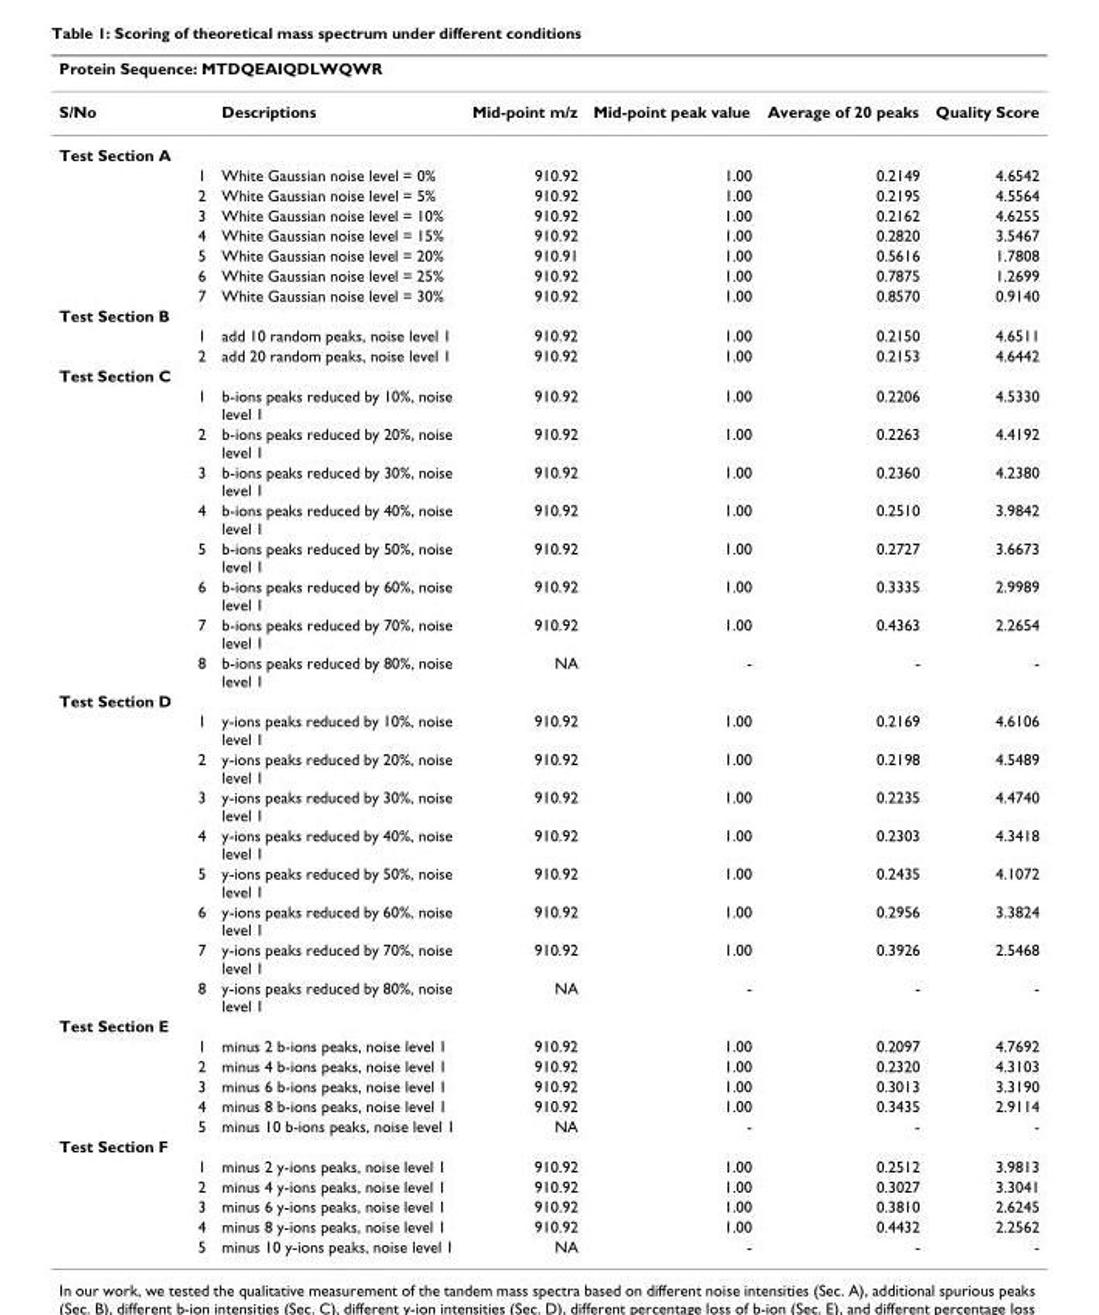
<table><thead><tr><td colspan="6">Protein Sequence: MTDQEAIQDLWQWR</td></tr><tr><td>S/No</td><td>Descriptions</td><td>Mid-point m/z</td><td>Mid-point peak value</td><td>Average of 20 peaks</td><td>Quality Score</td></tr></thead><tbody><tr><td colspan="6">Test Section A</td></tr><tr><td>1</td><td>White Gaussian noise level = 0%</td><td>910.92</td><td>1.00</td><td>0.2149</td><td>4.6542</td></tr><tr><td>2</td><td>White Gaussian noise level = 5%</td><td>910.92</td><td>1.00</td><td>0.2195</td><td>4.5564</td></tr><tr><td>3</td><td>White Gaussian noise level = 10%</td><td>910.92</td><td>1.00</td><td>0.2162</td><td>4.6255</td></tr><tr><td>4</td><td>White Gaussian noise level = 15%</td><td>910.92</td><td>1.00</td><td>0.2820</td><td>3.5467</td></tr><tr><td>5</td><td>White Gaussian noise level = 20%</td><td>910.91</td><td>1.00</td><td>0.5616</td><td>1.7808</td></tr><tr><td>6</td><td>White Gaussian noise level = 25%</td><td>910.92</td><td>1.00</td><td>0.7875</td><td>1.2699</td></tr><tr><td>7</td><td>White Gaussian noise level = 30%</td><td>910.92</td><td>1.00</td><td>0.8570</td><td>0.9140</td></tr><tr><td colspan="6">Test Section B</td></tr><tr><td>1</td><td>add 10 random peaks, noise level 1</td><td>910.92</td><td>1.00</td><td>0.2150</td><td>4.6511</td></tr><tr><td>2</td><td>add 20 random peaks, noise level 1</td><td>910.92</td><td>1.00</td><td>0.2153</td><td>4.6442</td></tr><tr><td colspan="6">Test Section C</td></tr><tr><td>1</td><td>b-ions peaks reduced by 10%, noise level 1</td><td>910.92</td><td>1.00</td><td>0.2206</td><td>4.5330</td></tr><tr><td>2</td><td>b-ions peaks reduced by 20%, noise level 1</td><td>910.92</td><td>1.00</td><td>0.2263</td><td>4.4192</td></tr><tr><td>3</td><td>b-ions peaks reduced by 30%, noise level 1</td><td>910.92</td><td>1.00</td><td>0.2360</td><td>4.2380</td></tr><tr><td>4</td><td>b-ions peaks reduced by 40%, noise level 1</td><td>910.92</td><td>1.00</td><td>0.2510</td><td>3.9842</td></tr><tr><td>5</td><td>b-ions peaks reduced by 50%, noise level 1</td><td>910.92</td><td>1.00</td><td>0.2727</td><td>3.6673</td></tr><tr><td>6</td><td>b-ions peaks reduced by 60%, noise level 1</td><td>910.92</td><td>1.00</td><td>0.3335</td><td>2.9989</td></tr><tr><td>7</td><td>b-ions peaks reduced by 70%, noise level 1</td><td>910.92</td><td>1.00</td><td>0.4363</td><td>2.2654</td></tr><tr><td>8</td><td>b-ions peaks reduced by 80%, noise level 1</td><td>NA</td><td>-</td><td>-</td><td>-</td></tr><tr><td colspan="6">Test Section D</td></tr><tr><td>1</td><td>y-ions peaks reduced by 10%, noise level 1</td><td>910.92</td><td>1.00</td><td>0.2169</td><td>4.6106</td></tr><tr><td>2</td><td>y-ions peaks reduced by 20%, noise level 1</td><td>910.92</td><td>1.00</td><td>0.2198</td><td>4.5489</td></tr><tr><td>3</td><td>y-ions peaks reduced by 30%, noise level 1</td><td>910.92</td><td>1.00</td><td>0.2235</td><td>4.4740</td></tr><tr><td>4</td><td>y-ions peaks reduced by 40%, noise level 1</td><td>910.92</td><td>1.00</td><td>0.2303</td><td>4.3418</td></tr><tr><td>5</td><td>y-ions peaks reduced by 50%, noise level 1</td><td>910.92</td><td>1.00</td><td>0.2435</td><td>4.1072</td></tr><tr><td>6</td><td>y-ions peaks reduced by 60%, noise level 1</td><td>910.92</td><td>1.00</td><td>0.2956</td><td>3.3824</td></tr><tr><td>7</td><td>y-ions peaks reduced by 70%, noise level 1</td><td>910.92</td><td>1.00</td><td>0.3926</td><td>2.5468</td></tr><tr><td>8</td><td>y-ions peaks reduced by 80%, noise level 1</td><td>NA</td><td>-</td><td>-</td><td>-</td></tr><tr><td colspan="6">Test Section E</td></tr><tr><td>1</td><td>minus 2 b-ions peaks, noise level 1</td><td>910.92</td><td>1.00</td><td>0.2097</td><td>4.7692</td></tr><tr><td>2</td><td>minus 4 b-ions peaks, noise level 1</td><td>910.92</td><td>1.00</td><td>0.2320</td><td>4.3103</td></tr><tr><td>3</td><td>minus 6 b-ions peaks, noise level 1</td><td>910.92</td><td>1.00</td><td>0.3013</td><td>3.3190</td></tr><tr><td>4</td><td>minus 8 b-ions peaks, noise level 1</td><td>910.92</td><td>1.00</td><td>0.3435</td><td>2.9114</td></tr><tr><td>5</td><td>minus 10 b-ions peaks, noise level 1</td><td>NA</td><td>-</td><td>-</td><td>-</td></tr><tr><td colspan="6">Test Section F</td></tr><tr><td>1</td><td>minus 2 y-ions peaks, noise level 1</td><td>910.92</td><td>1.00</td><td>0.2512</td><td>3.9813</td></tr><tr><td>2</td><td>minus 4 y-ions peaks, noise level 1</td><td>910.92</td><td>1.00</td><td>0.3027</td><td>3.3041</td></tr><tr><td>3</td><td>minus 6 y-ions peaks, noise level 1</td><td>910.92</td><td>1.00</td><td>0.3810</td><td>2.6245</td></tr><tr><td>4</td><td>minus 8 y-ions peaks, noise level 1</td><td>910.92</td><td>1.00</td><td>0.4432</td><td>2.2562</td></tr><tr><td>5</td><td>minus 10 y-ions peaks, noise level 1</td><td>NA</td><td>-</td><td>-</td><td>-</td></tr></tbody></table>